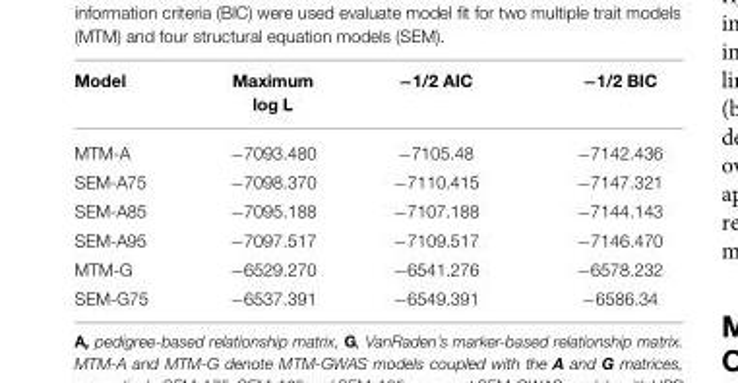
<table><thead><tr><td>Model</td><td>Maximum log L</td><td>−1/2 AIC</td><td>−1/2 BIC</td></tr></thead><tbody><tr><td>MTM-A</td><td>−7093.480</td><td>−7105.48</td><td>−7142.436</td></tr><tr><td>SEM-A75</td><td>−7098.370</td><td>−7110.415</td><td>−7147.321</td></tr><tr><td>SEM-A85</td><td>−7095.188</td><td>−7107.188</td><td>−7144.143</td></tr><tr><td>SEM-A95</td><td>−7097.517</td><td>−7109.517</td><td>−7146.470</td></tr><tr><td>MTM-G</td><td>−6529.270</td><td>−6541.276</td><td>−6578.232</td></tr><tr><td>SEM-G75</td><td>−6537.391</td><td>−6549.391</td><td>−6586.34</td></tr></tbody></table>